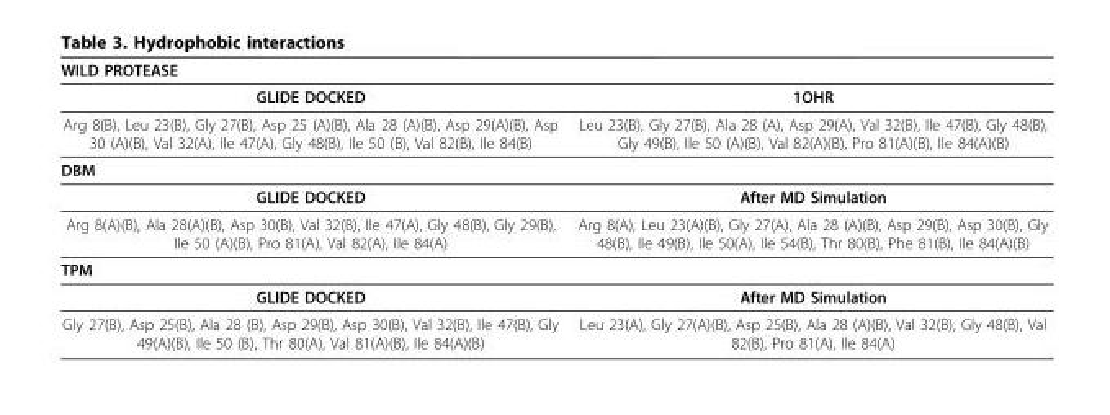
<table><thead><tr><td colspan="2">WILD PROTEASE</td></tr><tr><td>GLIDE DOCKED</td><td>1OHR</td></tr></thead><tbody><tr><td>Arg 8(B), Leu 23(B), Gly 27(B), Asp 25 (A)(B), Ala 28 (A)(B), Asp 29(A)(B), Asp 30 (A)(B), Val 32(A), Ile 47(A), Gly 48(B), Ile 50 (B), Val 82(B), Ile 84(B)</td><td>Leu 23(B), Gly 27(B), Ala 28 (A), Asp 29(A), Val 32(B), Ile 47(B), Gly 48(B), Gly 49(B), Ile 50 (A)(B), Val 82(A)(B), Pro 81(A)(B), Ile 84(A)(B)</td></tr><tr><td colspan="2">DBM</td></tr><tr><td>GLIDE DOCKED</td><td>After MD Simulation</td></tr><tr><td>Arg 8(A)(B), Ala 28(A)(B), Asp 30(B), Val 32(B), Ile 47(A), Gly 48(B), Gly 29(B), Ile 50 (A)(B), Pro 81(A), Val 82(A), Ile 84(A)</td><td>Arg 8(A), Leu 23(A)(B), Gly 27(A), Ala 28 (A)(B), Asp 29(B), Asp 30(B), Gly 48(B), Ile 49(B), Ile 50(A), Ile 54(B), Thr 80(B), Phe 81(B), Ile 84(A)(B)</td></tr><tr><td colspan="2">TPM</td></tr><tr><td>GLIDE DOCKED</td><td>After MD Simulation</td></tr><tr><td>Gly 27(B), Asp 25(B), Ala 28 (B), Asp 29(B), Asp 30(B), Val 32(B), Ile 47(B), Gly 49(A)(B), Ile 50 (B), Thr 80(A), Val 81(A)(B), Ile 84(A)(B)</td><td>Leu 23(A), Gly 27(A)(B), Asp 25(B), Ala 28 (A)(B), Val 32(B), Gly 48(B), Val 82(B), Pro 81(A), Ile 84(A)</td></tr></tbody></table>